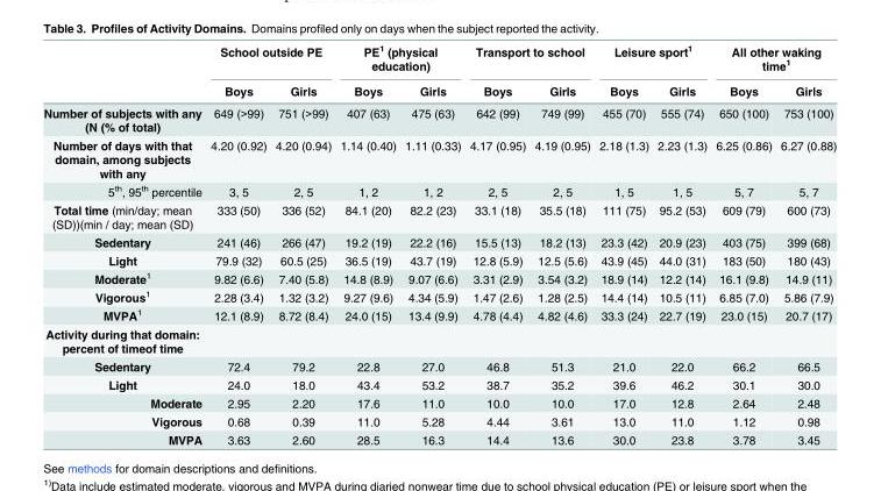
<table><thead><tr><td rowspan="2"></td><td colspan="2">School outside PE</td><td colspan="2">PE<sup>1</sup> (physical education)</td><td colspan="2">Transport to school</td><td colspan="2">Leisure sport<sup>1</sup></td><td colspan="2">All other waking time<sup>1</sup></td></tr><tr><td>Boys</td><td>Girls</td><td>Boys</td><td>Girls</td><td>Boys</td><td>Girls</td><td>Boys</td><td>Girls</td><td>Boys</td><td>Girls</td></tr></thead><tbody><tr><td>Number of subjects with any (N (% of total)</td><td>649 (&gt;99)</td><td>751 (&gt;99)</td><td>407 (63)</td><td>475 (63)</td><td>642 (99)</td><td>749 (99)</td><td>455 (70)</td><td>555 (74)</td><td>650 (100)</td><td>753 (100)</td></tr><tr><td>Number of days with that domain, among subjects with any</td><td>4.20 (0.92)</td><td>4.20 (0.94)</td><td>1.14 (0.40)</td><td>1.11 (0.33)</td><td>4.17 (0.95)</td><td>4.19 (0.95)</td><td>2.18 (1.3)</td><td>2.23 (1.3)</td><td>6.25 (0.86)</td><td>6.27 (0.88)</td></tr><tr><td>5<sup>th</sup>, 95<sup>th</sup> percentile</td><td>3, 5</td><td>2, 5</td><td>1, 2</td><td>1, 2</td><td>2, 5</td><td>2, 5</td><td>1, 5</td><td>1, 5</td><td>5, 7</td><td>5, 7</td></tr><tr><td>Total time (min/day; mean (SD))(min / day; mean (SD)</td><td>333 (50)</td><td>336 (52)</td><td>84.1 (20)</td><td>82.2 (23)</td><td>33.1 (18)</td><td>35.5 (18)</td><td>111 (75)</td><td>95.2 (53)</td><td>609 (79)</td><td>600 (73)</td></tr><tr><td>Sedentary</td><td>241 (46)</td><td>266 (47)</td><td>19.2 (19)</td><td>22.2 (16)</td><td>15.5 (13)</td><td>18.2 (13)</td><td>23.3 (42)</td><td>20.9 (23)</td><td>403 (75)</td><td>399 (68)</td></tr><tr><td>Light</td><td>79.9 (32)</td><td>60.5 (25)</td><td>36.5 (19)</td><td>43.7 (19)</td><td>12.8 (5.9)</td><td>12.5 (5.6)</td><td>43.9 (45)</td><td>44.0 (31)</td><td>183 (50)</td><td>180 (43)</td></tr><tr><td>Moderate<sup>1</sup></td><td>9.82 (6.6)</td><td>7.40 (5.8)</td><td>14.8 (8.9)</td><td>9.07 (6.6)</td><td>3.31 (2.9)</td><td>3.54 (3.2)</td><td>18.9 (14)</td><td>12.2 (14)</td><td>16.1 (9.8)</td><td>14.9 (11)</td></tr><tr><td>Vigorous<sup>1</sup></td><td>2.28 (3.4)</td><td>1.32 (3.2)</td><td>9.27 (9.6)</td><td>4.34 (5.9)</td><td>1.47 (2.6)</td><td>1.28 (2.5)</td><td>14.4 (14)</td><td>10.5 (11)</td><td>6.85 (7.0)</td><td>5.86 (7.9)</td></tr><tr><td>MVPA<sup>1</sup></td><td>12.1 (8.9)</td><td>8.72 (8.4)</td><td>24.0 (15)</td><td>13.4 (9.9)</td><td>4.78 (4.4)</td><td>4.82 (4.6)</td><td>33.3 (24)</td><td>22.7 (19)</td><td>23.0 (15)</td><td>20.7 (17)</td></tr><tr><td colspan="11">Activity during that domain: percent of timeof time</td></tr><tr><td>Sedentary</td><td>72.4</td><td>79.2</td><td>22.8</td><td>27.0</td><td>46.8</td><td>51.3</td><td>21.0</td><td>22.0</td><td>66.2</td><td>66.5</td></tr><tr><td>Light</td><td>24.0</td><td>18.0</td><td>43.4</td><td>53.2</td><td>38.7</td><td>35.2</td><td>39.6</td><td>46.2</td><td>30.1</td><td>30.0</td></tr><tr><td>Moderate</td><td>2.95</td><td>2.20</td><td>17.6</td><td>11.0</td><td>10.0</td><td>10.0</td><td>17.0</td><td>12.8</td><td>2.64</td><td>2.48</td></tr><tr><td>Vigorous</td><td>0.68</td><td>0.39</td><td>11.0</td><td>5.28</td><td>4.44</td><td>3.61</td><td>13.0</td><td>11.0</td><td>1.12</td><td>0.98</td></tr><tr><td>MVPA</td><td>3.63</td><td>2.60</td><td>28.5</td><td>16.3</td><td>14.4</td><td>13.6</td><td>30.0</td><td>23.8</td><td>3.78</td><td>3.45</td></tr></tbody></table>